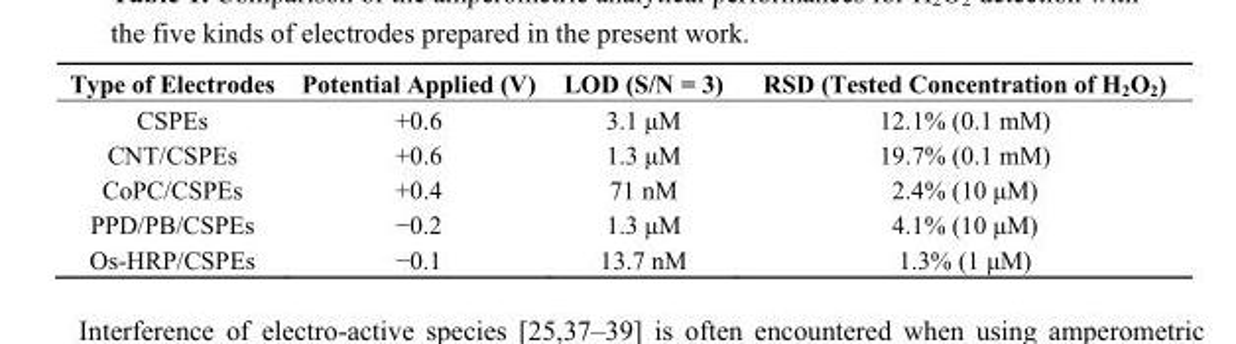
<table><thead><tr><td>Type of Electrodes</td><td>Potential Applied (V)</td><td>LOD (S/N = 3)</td><td>RSD (Tested Concentration of H<sub>2</sub>O<sub>2</sub>)</td></tr></thead><tbody><tr><td>CSPEs</td><td>+0.6</td><td>3.1 μM</td><td>12.1% (0.1 mM)</td></tr><tr><td>CNT/CSPEs</td><td>+0.6</td><td>1.3 μM</td><td>19.7% (0.1 mM)</td></tr><tr><td>CoPC/CSPEs</td><td>+0.4</td><td>71 nM</td><td>2.4% (10 μM)</td></tr><tr><td>PPD/PB/CSPEs</td><td>−0.2</td><td>1.3 μM</td><td>4.1% (10 μM)</td></tr><tr><td>Os-HRP/CSPEs</td><td>−0.1</td><td>13.7 nM</td><td>1.3% (1 μM)</td></tr></tbody></table>